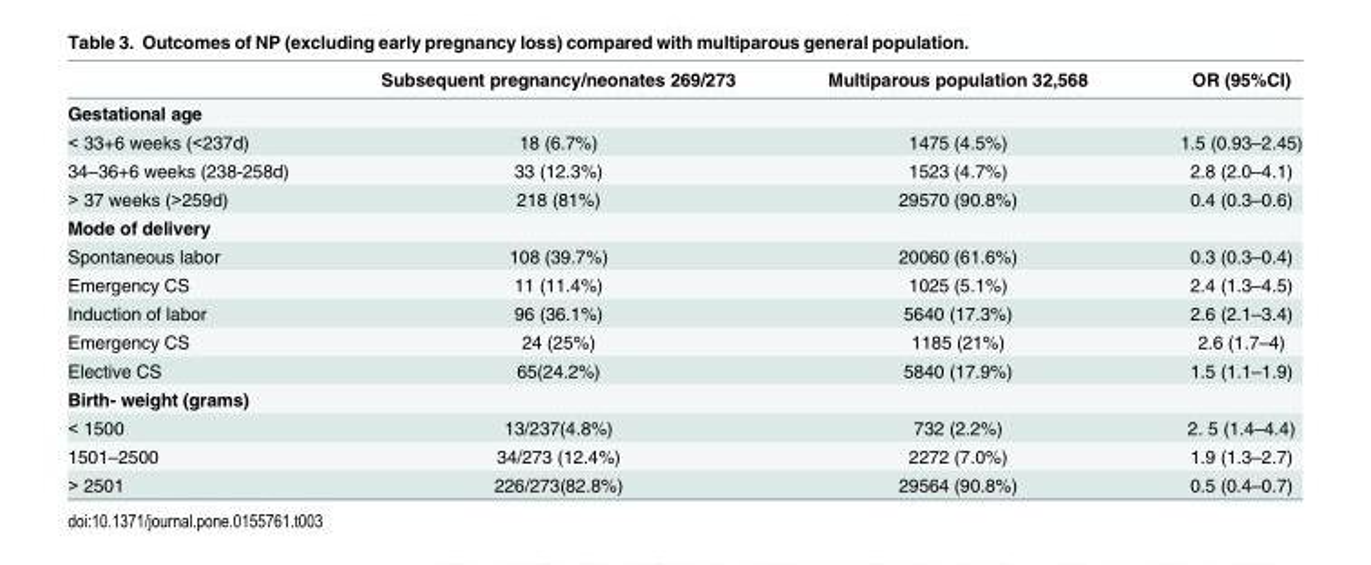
<table><thead><tr><td></td><td>Subsequent pregnancy/neonates 269/273</td><td>Multiparous population 32,568</td><td>OR (95%CI)</td></tr></thead><tbody><tr><td colspan="4">Gestational age</td></tr><tr><td>&lt; 33+6 weeks (&lt;237d)</td><td>18 (6.7%)</td><td>1475 (4.5%)</td><td>1.5 (0.93–2.45)</td></tr><tr><td>34–36+6 weeks (238-258d)</td><td>33 (12.3%)</td><td>1523 (4.7%)</td><td>2.8 (2.0–4.1)</td></tr><tr><td>&gt; 37 weeks (&gt;259d)</td><td>218 (81%)</td><td>29570 (90.8%)</td><td>0.4 (0.3–0.6)</td></tr><tr><td colspan="4">Mode of delivery</td></tr><tr><td>Spontaneous labor</td><td>108 (39.7%)</td><td>20060 (61.6%)</td><td>0.3 (0.3–0.4)</td></tr><tr><td>Emergency CS</td><td>11 (11.4%)</td><td>1025 (5.1%)</td><td>2.4 (1.3–4.5)</td></tr><tr><td>Induction of labor</td><td>96 (36.1%)</td><td>5640 (17.3%)</td><td>2.6 (2.1–3.4)</td></tr><tr><td>Emergency CS</td><td>24 (25%)</td><td>1185 (21%)</td><td>2.6 (1.7–4)</td></tr><tr><td>Elective CS</td><td>65(24.2%)</td><td>5840 (17.9%)</td><td>1.5 (1.1–1.9)</td></tr><tr><td colspan="4">Birth- weight (grams)</td></tr><tr><td>&lt; 1500</td><td>13/237(4.8%)</td><td>732 (2.2%)</td><td>2. 5 (1.4–4.4)</td></tr><tr><td>1501–2500</td><td>34/273 (12.4%)</td><td>2272 (7.0%)</td><td>1.9 (1.3–2.7)</td></tr><tr><td>&gt; 2501</td><td>226/273(82.8%)</td><td>29564 (90.8%)</td><td>0.5 (0.4–0.7)</td></tr></tbody></table>